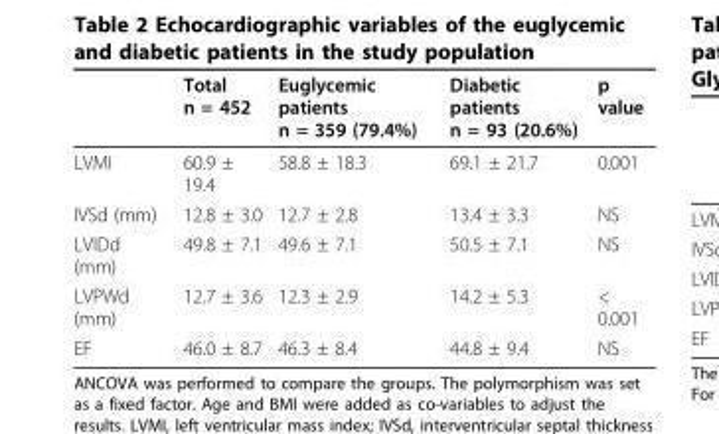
<table><thead><tr><td></td><td>Total n = 452</td><td>Euglycemic patients n = 359 (79.4%)</td><td>Diabetic patients n = 93 (20.6%)</td><td>p value</td></tr></thead><tbody><tr><td>LVMI</td><td>60.9 ± 19.4</td><td>58.8 ± 18.3</td><td>69.1 ± 21.7</td><td>0.001</td></tr><tr><td>IVSd (mm)</td><td>12.8 ± 3.0</td><td>12.7 ± 2.8</td><td>13.4 ± 3.3</td><td>NS</td></tr><tr><td>LVIDd (mm)</td><td>49.8 ± 7.1</td><td>49.6 ± 7.1</td><td>50.5 ± 7.1</td><td>NS</td></tr><tr><td>LVPWd (mm)</td><td>12.7 ± 3.6</td><td>12.3 ± 2.9</td><td>14.2 ± 5.3</td><td>&lt; 0.001</td></tr><tr><td>EF</td><td>46.0 ± 8.7</td><td>46.3 ± 8.4</td><td>44.8 ± 9.4</td><td>NS</td></tr></tbody></table>